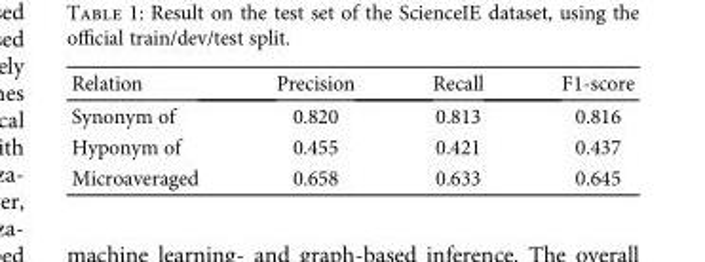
<table><thead><tr><td>Relation</td><td>Precision</td><td>Recall</td><td>F1-score</td></tr></thead><tbody><tr><td>Synonym of</td><td>0.820</td><td>0.813</td><td>0.816</td></tr><tr><td>Hyponym of</td><td>0.455</td><td>0.421</td><td>0.437</td></tr><tr><td>Microaveraged</td><td>0.658</td><td>0.633</td><td>0.645</td></tr></tbody></table>